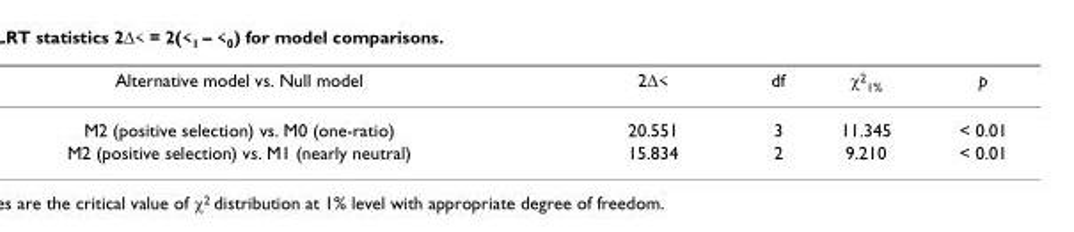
<table><thead><tr><td>Alternative model vs. Null model</td><td>2Δ&lt;</td><td>df</td><td>χ<sup>2</sup><sub>1%</sub></td><td>p</td></tr></thead><tbody><tr><td>M2 (positive selection) vs. M0 (one-ratio)</td><td>20.551</td><td>3</td><td>11.345</td><td>&lt; 0.01</td></tr><tr><td>M2 (positive selection) vs. M1 (nearly neutral)</td><td>15.834</td><td>2</td><td>9.210</td><td>&lt; 0.01</td></tr></tbody></table>